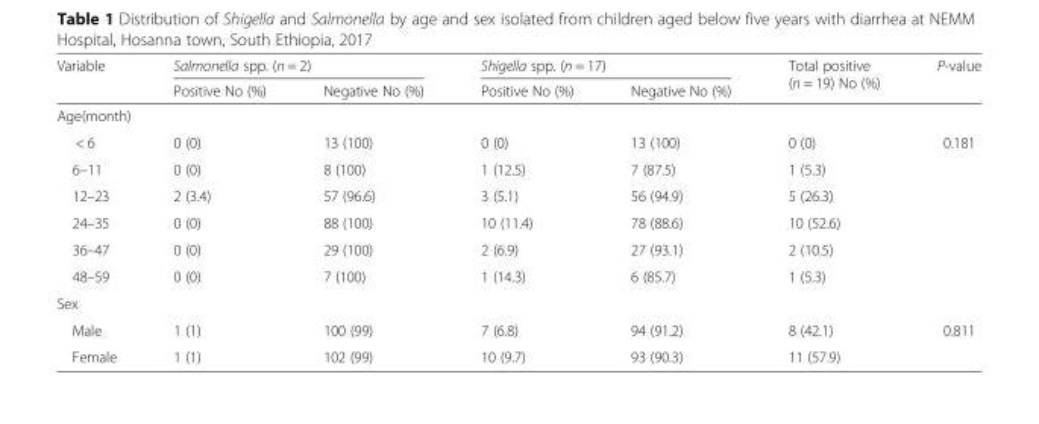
<table><thead><tr><td rowspan="2">Variable</td><td colspan="2">Salmonella spp. (n = 2)</td><td colspan="2">Shigella spp. (n = 17)</td><td rowspan="2">Total positive (n = 19) No (%)</td><td rowspan="2">P-value</td></tr><tr><td>Positive No (%)</td><td>Negative No (%)</td><td>Positive No (%)</td><td>Negative No (%)</td></tr></thead><tbody><tr><td colspan="7">Age(month)</td></tr><tr><td>&lt; 6</td><td>0 (0)</td><td>13 (100)</td><td>0 (0)</td><td>13 (100)</td><td>0 (0)</td><td rowspan="6">0.181</td></tr><tr><td>6–11</td><td>0 (0)</td><td>8 (100)</td><td>1 (12.5)</td><td>7 (87.5)</td><td>1 (5.3)</td></tr><tr><td>12–23</td><td>2 (3.4)</td><td>57 (96.6)</td><td>3 (5.1)</td><td>56 (94.9)</td><td>5 (26.3)</td></tr><tr><td>24–35</td><td>0 (0)</td><td>88 (100)</td><td>10 (11.4)</td><td>78 (88.6)</td><td>10 (52.6)</td></tr><tr><td>36–47</td><td>0 (0)</td><td>29 (100)</td><td>2 (6.9)</td><td>27 (93.1)</td><td>2 (10.5)</td></tr><tr><td>48–59</td><td>0 (0)</td><td>7 (100)</td><td>1 (14.3)</td><td>6 (85.7)</td><td>1 (5.3)</td></tr><tr><td colspan="7">Sex</td></tr><tr><td>Male</td><td>1 (1)</td><td>100 (99)</td><td>7 (6.8)</td><td>94 (91.2)</td><td>8 (42.1)</td><td rowspan="2">0.811</td></tr><tr><td>Female</td><td>1 (1)</td><td>102 (99)</td><td>10 (9.7)</td><td>93 (90.3)</td><td>11 (57.9)</td></tr></tbody></table>